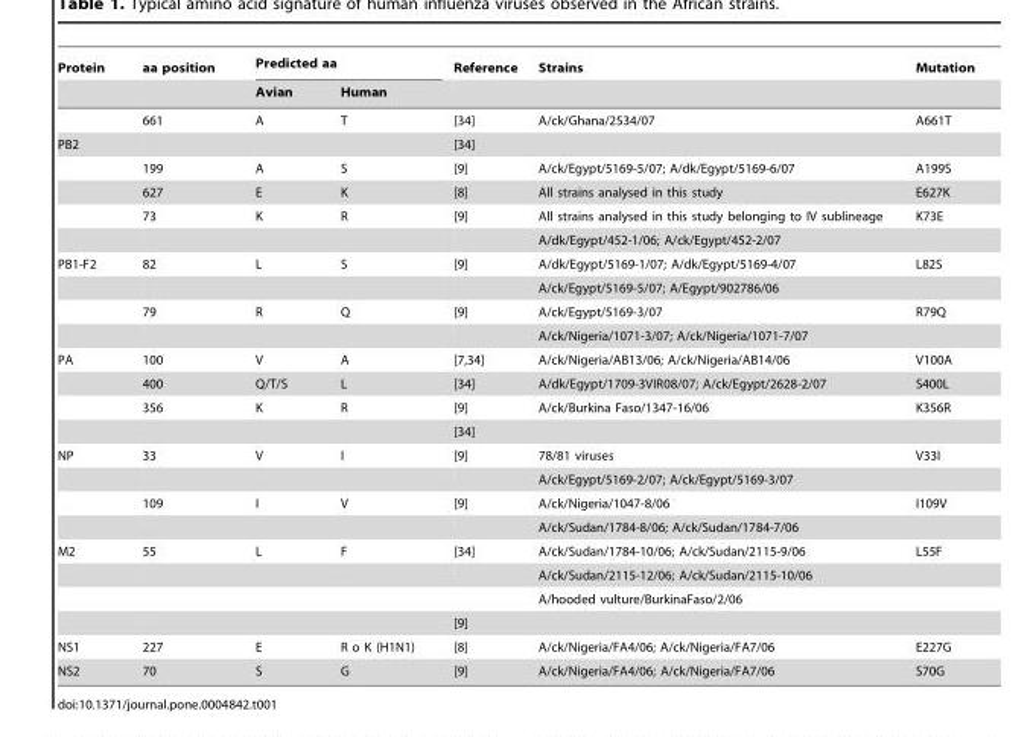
<table><thead><tr><td rowspan="2">Protein</td><td rowspan="2">aa position</td><td colspan="2">Predicted aa</td><td rowspan="2">Reference</td><td rowspan="2">Strains</td><td rowspan="2">Mutation</td></tr><tr><td>Avian</td><td>Human</td></tr></thead><tbody><tr><td></td><td>661</td><td>A</td><td>T</td><td>[34]</td><td>A/ck/Ghana/2534/07</td><td>A661T</td></tr><tr><td rowspan="5">PB2</td><td></td><td></td><td></td><td>[34]</td><td></td><td></td></tr><tr><td>199</td><td>A</td><td>S</td><td>[9]</td><td>A/ck/Egypt/5169-5/07; A/dk/Egypt/5169-6/07</td><td>A199S</td></tr><tr><td>627</td><td>E</td><td>K</td><td>[8]</td><td>All strains analysed in this study</td><td>E627K</td></tr><tr><td>73</td><td>K</td><td>R</td><td>[9]</td><td>All strains analysed in this study belonging to IV sublineage</td><td>K73E</td></tr><tr><td></td><td></td><td></td><td></td><td>A/dk/Egypt/452-1/06; A/ck/Egypt/452-2/07</td><td></td></tr><tr><td rowspan="4">PB1-F2</td><td>82</td><td>L</td><td>S</td><td>[9]</td><td>A/dk/Egypt/5169-1/07; A/dk/Egypt/5169-4/07</td><td>L82S</td></tr><tr><td></td><td></td><td></td><td></td><td>A/ck/Egypt/5169-5/07; A/Egypt/902786/06</td><td></td></tr><tr><td>79</td><td>R</td><td>Q</td><td>[9]</td><td>A/ck/Egypt/5169-3/07</td><td>R79Q</td></tr><tr><td></td><td></td><td></td><td></td><td>A/ck/Nigeria/1071-3/07; A/ck/Nigeria/1071-7/07</td><td></td></tr><tr><td rowspan="4">PA</td><td>100</td><td>V</td><td>A</td><td>[7,34]</td><td>A/ck/Nigeria/AB13/06; A/ck/Nigeria/AB14/06</td><td>V100A</td></tr><tr><td>400</td><td>Q/T/S</td><td>L</td><td>[34]</td><td>A/dk/Egypt/1709-3VIR08/07; A/ck/Egypt/2628-2/07</td><td>S400L</td></tr><tr><td>356</td><td>K</td><td>R</td><td>[9]</td><td>A/ck/Burkina Faso/1347-16/06</td><td>K356R</td></tr><tr><td></td><td></td><td></td><td>[34]</td><td></td><td></td></tr><tr><td rowspan="4">NP</td><td>33</td><td>V</td><td>I</td><td>[9]</td><td>78/81 viruses</td><td>V33I</td></tr><tr><td></td><td></td><td></td><td></td><td>A/ck/Egypt/5169-2/07; A/ck/Egypt/5169-3/07</td><td></td></tr><tr><td>109</td><td>I</td><td>V</td><td>[9]</td><td>A/ck/Nigeria/1047-8/06</td><td>I109V</td></tr><tr><td></td><td></td><td></td><td></td><td>A/ck/Sudan/1784-8/06; A/ck/Sudan/1784-7/06</td><td></td></tr><tr><td rowspan="4">M2</td><td>55</td><td>L</td><td>F</td><td>[34]</td><td>A/ck/Sudan/1784-10/06; A/ck/Sudan/2115-9/06</td><td>L55F</td></tr><tr><td></td><td></td><td></td><td></td><td>A/ck/Sudan/2115-12/06; A/ck/Sudan/2115-10/06</td><td></td></tr><tr><td></td><td></td><td></td><td></td><td>A/hooded vulture/BurkinaFaso/2/06</td><td></td></tr><tr><td></td><td></td><td></td><td>[9]</td><td></td><td></td></tr><tr><td>NS1</td><td>227</td><td>E</td><td>R o K (H1N1)</td><td>[8]</td><td>A/ck/Nigeria/FA4/06; A/ck/Nigeria/FA7/06</td><td>E227G</td></tr><tr><td>NS2</td><td>70</td><td>S</td><td>G</td><td>[9]</td><td>A/ck/Nigeria/FA4/06; A/ck/Nigeria/FA7/06</td><td>S70G</td></tr></tbody></table>